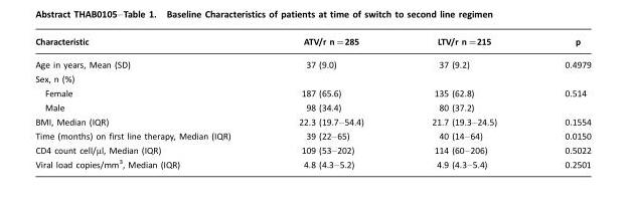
<table><thead><tr><td>Characteristic</td><td>ATV/r n=285</td><td>LTV/r n=215</td><td>p</td></tr></thead><tbody><tr><td>Age in years, Mean (SD)</td><td>37 (9.0)</td><td>37 (9.2)</td><td>0.4979</td></tr><tr><td colspan="4">Sex, n (%)</td></tr><tr><td>Female</td><td>187 (65.6)</td><td>135 (62.8)</td><td>0.514</td></tr><tr><td>Male</td><td>98 (34.4)</td><td>80 (37.2)</td><td></td></tr><tr><td>BMI, Median (IQR)</td><td>22.3 (19.7–54.4)</td><td>21.7 (19.3–24.5)</td><td>0.1554</td></tr><tr><td>Time (months) on first line therapy, Median (IQR)</td><td>39 (22–65)</td><td>40 (14–64)</td><td>0.0150</td></tr><tr><td>CD4 count cell/µl, Median (IQR)</td><td>109 (53–202)</td><td>114 (60–206)</td><td>0.5022</td></tr><tr><td>Viral load copies/mm3, Median (IQR)</td><td>4.8 (4.3–5.2)</td><td>4.9 (4.3–5.4)</td><td>0.2501</td></tr></tbody></table>